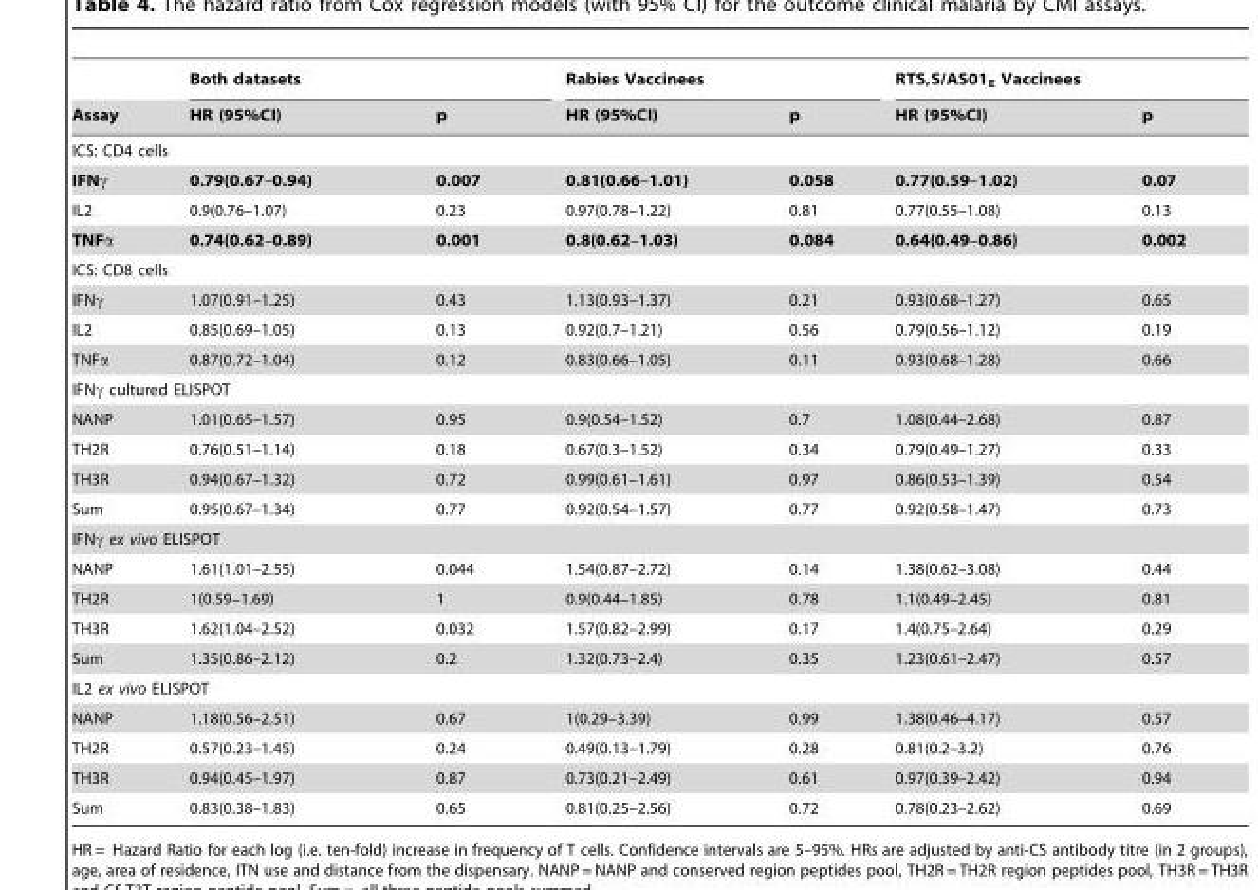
<table><thead><tr><td rowspan="2">Assay</td><td colspan="2">Both datasets</td><td colspan="2">Rabies Vaccinees</td><td colspan="2">RTS,S/AS01<sub>E</sub> Vaccinees</td></tr><tr><td>HR (95%CI)</td><td>p</td><td>HR (95%CI)</td><td>p</td><td>HR (95%CI)</td><td>p</td></tr></thead><tbody><tr><td colspan="7">ICS: CD4 cells</td></tr><tr><td>IFNγ</td><td>0.79(0.67–0.94)</td><td>0.007</td><td>0.81(0.66–1.01)</td><td>0.058</td><td>0.77(0.59–1.02)</td><td>0.07</td></tr><tr><td>IL2</td><td>0.9(0.76–1.07)</td><td>0.23</td><td>0.97(0.78–1.22)</td><td>0.81</td><td>0.77(0.55–1.08)</td><td>0.13</td></tr><tr><td>TNFα</td><td>0.74(0.62–0.89)</td><td>0.001</td><td>0.8(0.62–1.03)</td><td>0.084</td><td>0.64(0.49–0.86)</td><td>0.002</td></tr><tr><td colspan="7">ICS: CD8 cells</td></tr><tr><td>IFNγ</td><td>1.07(0.91–1.25)</td><td>0.43</td><td>1.13(0.93–1.37)</td><td>0.21</td><td>0.93(0.68–1.27)</td><td>0.65</td></tr><tr><td>IL2</td><td>0.85(0.69–1.05)</td><td>0.13</td><td>0.92(0.7–1.21)</td><td>0.56</td><td>0.79(0.56–1.12)</td><td>0.19</td></tr><tr><td>TNFα</td><td>0.87(0.72–1.04)</td><td>0.12</td><td>0.83(0.66–1.05)</td><td>0.11</td><td>0.93(0.68–1.28)</td><td>0.66</td></tr><tr><td colspan="7">IFNγ cultured ELISPOT</td></tr><tr><td>NANP</td><td>1.01(0.65–1.57)</td><td>0.95</td><td>0.9(0.54–1.52)</td><td>0.7</td><td>1.08(0.44–2.68)</td><td>0.87</td></tr><tr><td>TH2R</td><td>0.76(0.51–1.14)</td><td>0.18</td><td>0.67(0.3–1.52)</td><td>0.34</td><td>0.79(0.49–1.27)</td><td>0.33</td></tr><tr><td>TH3R</td><td>0.94(0.67–1.32)</td><td>0.72</td><td>0.99(0.61–1.61)</td><td>0.97</td><td>0.86(0.53–1.39)</td><td>0.54</td></tr><tr><td>Sum</td><td>0.95(0.67–1.34)</td><td>0.77</td><td>0.92(0.54–1.57)</td><td>0.77</td><td>0.92(0.58–1.47)</td><td>0.73</td></tr><tr><td colspan="7">IFNγ ex vivo ELISPOT</td></tr><tr><td>NANP</td><td>1.61(1.01–2.55)</td><td>0.044</td><td>1.54(0.87–2.72)</td><td>0.14</td><td>1.38(0.62–3.08)</td><td>0.44</td></tr><tr><td>TH2R</td><td>1(0.59–1.69)</td><td>1</td><td>0.9(0.44–1.85)</td><td>0.78</td><td>1.1(0.49–2.45)</td><td>0.81</td></tr><tr><td>TH3R</td><td>1.62(1.04–2.52)</td><td>0.032</td><td>1.57(0.82–2.99)</td><td>0.17</td><td>1.4(0.75–2.64)</td><td>0.29</td></tr><tr><td>Sum</td><td>1.35(0.86–2.12)</td><td>0.2</td><td>1.32(0.73–2.4)</td><td>0.35</td><td>1.23(0.61–2.47)</td><td>0.57</td></tr><tr><td colspan="7">IL2 ex vivo ELISPOT</td></tr><tr><td>NANP</td><td>1.18(0.56–2.51)</td><td>0.67</td><td>1(0.29–3.39)</td><td>0.99</td><td>1.38(0.46–4.17)</td><td>0.57</td></tr><tr><td>TH2R</td><td>0.57(0.23–1.45)</td><td>0.24</td><td>0.49(0.13–1.79)</td><td>0.28</td><td>0.81(0.2–3.2)</td><td>0.76</td></tr><tr><td>TH3R</td><td>0.94(0.45–1.97)</td><td>0.87</td><td>0.73(0.21–2.49)</td><td>0.61</td><td>0.97(0.39–2.42)</td><td>0.94</td></tr><tr><td>Sum</td><td>0.83(0.38–1.83)</td><td>0.65</td><td>0.81(0.25–2.56)</td><td>0.72</td><td>0.78(0.23–2.62)</td><td>0.69</td></tr></tbody></table>